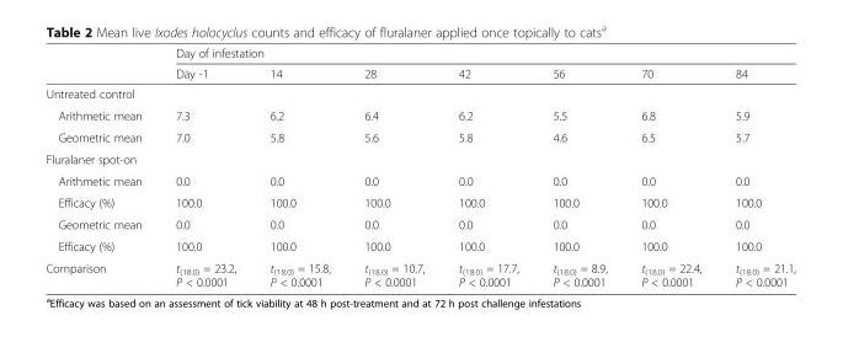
<table><thead><tr><td rowspan="2"></td><td colspan="7">Day of infestation</td></tr><tr><td>Day -1</td><td>14</td><td>28</td><td>42</td><td>56</td><td>70</td><td>84</td></tr></thead><tbody><tr><td colspan="8">Untreated control</td></tr><tr><td>Arithmetic mean</td><td>7.3</td><td>6.2</td><td>6.4</td><td>6.2</td><td>5.5</td><td>6.8</td><td>5.9</td></tr><tr><td>Geometric mean</td><td>7.0</td><td>5.8</td><td>5.6</td><td>5.8</td><td>4.6</td><td>6.5</td><td>5.7</td></tr><tr><td colspan="8">Fluralaner spot-on</td></tr><tr><td>Arithmetic mean</td><td>0.0</td><td>0.0</td><td>0.0</td><td>0.0</td><td>0.0</td><td>0.0</td><td>0.0</td></tr><tr><td>Efficacy (%)</td><td>100.0</td><td>100.0</td><td>100.0</td><td>100.0</td><td>100.0</td><td>100.0</td><td>100.0</td></tr><tr><td>Geometric mean</td><td>0.0</td><td>0.0</td><td>0.0</td><td>0.0</td><td>0.0</td><td>0.0</td><td>0.0</td></tr><tr><td>Efficacy (%)</td><td>100.0</td><td>100.0</td><td>100.0</td><td>100.0</td><td>100.0</td><td>100.0</td><td>100.0</td></tr><tr><td>Comparison</td><td>t<sub>(18.0)</sub> = 23.2, P &lt; 0.0001</td><td>t<sub>(18.0)</sub> = 15.8, P &lt; 0.0001</td><td>t<sub>(18.0)</sub> = 10.7, P &lt; 0.0001</td><td>t<sub>(18.0)</sub> = 17.7, P &lt; 0.0001</td><td>t<sub>(18.0)</sub> = 8.9, P &lt; 0.0001</td><td>t<sub>(18.0)</sub> = 22.4, P &lt; 0.0001</td><td>t<sub>(18.0)</sub> = 21.1, P &lt; 0.0001</td></tr></tbody></table>